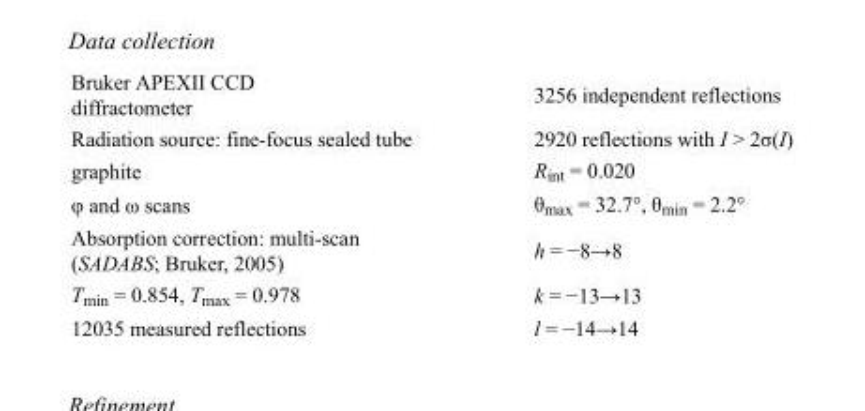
<table><tbody><tr><td>Bruker APEXII CCD diffractometer</td><td>3256 independent reflections</td></tr><tr><td>Radiation source: fine-focus sealed tube</td><td>2920 reflections with I &gt; 2σ(I)</td></tr><tr><td>graphite</td><td>R<sub>int</sub> = 0.020</td></tr><tr><td>φ and ω scans</td><td>θ<sub>max</sub> = 32.7°, θ<sub>min</sub> = 2.2°</td></tr><tr><td>Absorption correction: multi-scan (SADABS; Bruker, 2005)</td><td>h = −8→8</td></tr><tr><td>T<sub>min</sub> = 0.854, T<sub>max</sub> = 0.978</td><td>k = −13→13</td></tr><tr><td>12035 measured reflections</td><td>l = −14→14</td></tr></tbody></table>